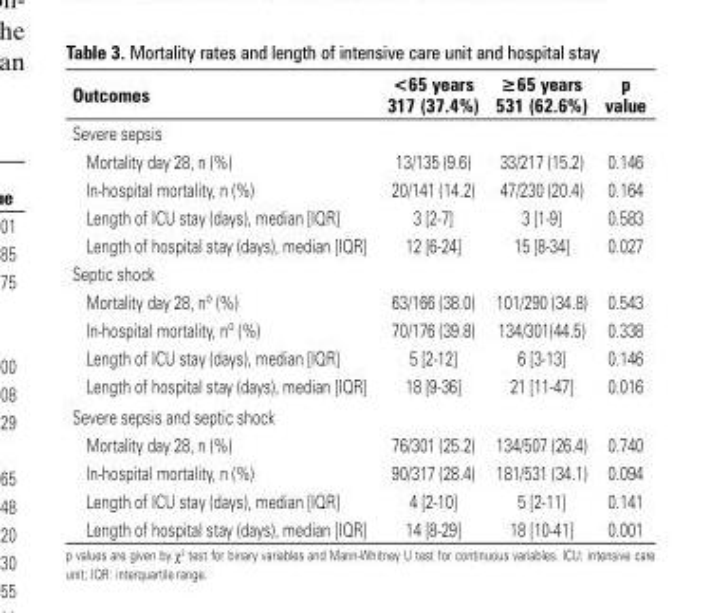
<table><thead><tr><td>Outcomes</td><td>&lt;65 years 317 (37.4%)</td><td>≥65 years 531 (62.6%)</td><td>p value</td></tr></thead><tbody><tr><td colspan="4">Severe sepsis</td></tr><tr><td>Mortality day 28, n (%)</td><td>13/135 (9.6)</td><td>33/217 (15.2)</td><td>0.146</td></tr><tr><td>In-hospital mortality, n (%)</td><td>20/141 (14.2)</td><td>47/230 (20.4)</td><td>0.164</td></tr><tr><td>Length of ICU stay (days), median [IQR]</td><td>3 [2-7]</td><td>3 [1-9]</td><td>0.583</td></tr><tr><td>Length of hospital stay (days), median [IQR]</td><td>12 [6-24]</td><td>15 [8-34]</td><td>0.027</td></tr><tr><td colspan="4">Septic shock</td></tr><tr><td>Mortality day 28, nº (%)</td><td>63/166 (38.0)</td><td>101/290 (34.8)</td><td>0.543</td></tr><tr><td>In-hospital mortality, nº (%)</td><td>70/176 (39.8)</td><td>134/301(44.5)</td><td>0.338</td></tr><tr><td>Length of ICU stay (days), median [IQR]</td><td>5 [2-12]</td><td>6 [3-13]</td><td>0.146</td></tr><tr><td>Length of hospital stay (days), median [IQR]</td><td>18 [9-36]</td><td>21 [11-47]</td><td>0.016</td></tr><tr><td colspan="4">Severe sepsis and septic shock</td></tr><tr><td>Mortality day 28, n (%)</td><td>76/301 (25.2)</td><td>134/507 (26.4)</td><td>0.740</td></tr><tr><td>In-hospital mortality, n (%)</td><td>90/317 (28.4)</td><td>181/531 (34.1)</td><td>0.094</td></tr><tr><td>Length of ICU stay (days), median [IQR]</td><td>4 [2-10]</td><td>5 [2-11]</td><td>0.141</td></tr><tr><td>Length of hospital stay (days), median [IQR]</td><td>14 [8-29]</td><td>18 [10-41]</td><td>0.001</td></tr></tbody></table>